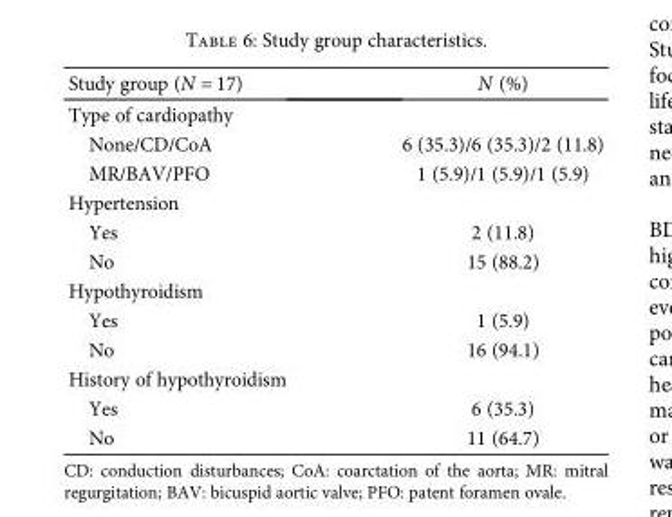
<table><thead><tr><td>Study group (N = 17)</td><td>N (%)</td></tr></thead><tbody><tr><td colspan="2">Type of cardiopathy</td></tr><tr><td>None/CD/CoA</td><td>6 (35.3)/6 (35.3)/2 (11.8)</td></tr><tr><td>MR/BAV/PFO</td><td>1 (5.9)/1 (5.9)/1 (5.9)</td></tr><tr><td colspan="2">Hypertension</td></tr><tr><td>Yes</td><td>2 (11.8)</td></tr><tr><td>No</td><td>15 (88.2)</td></tr><tr><td colspan="2">Hypothyroidism</td></tr><tr><td>Yes</td><td>1 (5.9)</td></tr><tr><td>No</td><td>16 (94.1)</td></tr><tr><td colspan="2">History of hypothyroidism</td></tr><tr><td>Yes</td><td>6 (35.3)</td></tr><tr><td>No</td><td>11 (64.7)</td></tr></tbody></table>